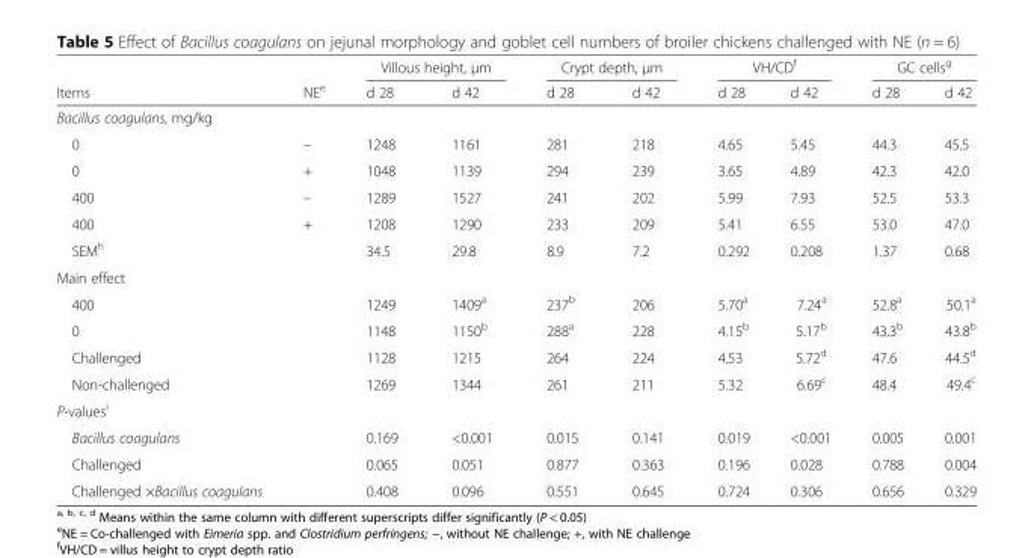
<table><thead><tr><td rowspan="2">Items</td><td rowspan="2">NE<sup>e</sup></td><td colspan="2">Villous height, μm</td><td colspan="2">Crypt depth, μm</td><td colspan="2">VH/CD<sup>f</sup></td><td colspan="2">GC cells<sup>g</sup></td></tr><tr><td>d 28</td><td>d 42</td><td>d 28</td><td>d 42</td><td>d 28</td><td>d 42</td><td>d 28</td><td>d 42</td></tr></thead><tbody><tr><td colspan="10">Bacillus coagulans, mg/kg</td></tr><tr><td>0</td><td>–</td><td>1248</td><td>1161</td><td>281</td><td>218</td><td>4.65</td><td>5.45</td><td>44.3</td><td>45.5</td></tr><tr><td>0</td><td>+</td><td>1048</td><td>1139</td><td>294</td><td>239</td><td>3.65</td><td>4.89</td><td>42.3</td><td>42.0</td></tr><tr><td>400</td><td>–</td><td>1289</td><td>1527</td><td>241</td><td>202</td><td>5.99</td><td>7.93</td><td>52.5</td><td>53.3</td></tr><tr><td>400</td><td>+</td><td>1208</td><td>1290</td><td>233</td><td>209</td><td>5.41</td><td>6.55</td><td>53.0</td><td>47.0</td></tr><tr><td>SEM<sup>h</sup></td><td></td><td>34.5</td><td>29.8</td><td>8.9</td><td>7.2</td><td>0.292</td><td>0.208</td><td>1.37</td><td>0.68</td></tr><tr><td colspan="10">Main effect</td></tr><tr><td>400</td><td></td><td>1249</td><td>1409<sup>a</sup></td><td>237<sup>b</sup></td><td>206</td><td>5.70<sup>a</sup></td><td>7.24<sup>a</sup></td><td>52.8<sup>a</sup></td><td>50.1<sup>a</sup></td></tr><tr><td>0</td><td></td><td>1148</td><td>1150<sup>b</sup></td><td>288<sup>a</sup></td><td>228</td><td>4.15<sup>b</sup></td><td>5.17<sup>b</sup></td><td>43.3<sup>b</sup></td><td>43.8<sup>b</sup></td></tr><tr><td>Challenged</td><td></td><td>1128</td><td>1215</td><td>264</td><td>224</td><td>4.53</td><td>5.72<sup>d</sup></td><td>47.6</td><td>44.5<sup>d</sup></td></tr><tr><td>Non-challenged</td><td></td><td>1269</td><td>1344</td><td>261</td><td>211</td><td>5.32</td><td>6.69<sup>c</sup></td><td>48.4</td><td>49.4<sup>c</sup></td></tr><tr><td colspan="10">P-values<sup>i</sup></td></tr><tr><td>Bacillus coagulans</td><td></td><td>0.169</td><td>&lt;0.001</td><td>0.015</td><td>0.141</td><td>0.019</td><td>&lt;0.001</td><td>0.005</td><td>0.001</td></tr><tr><td>Challenged</td><td></td><td>0.065</td><td>0.051</td><td>0.877</td><td>0.363</td><td>0.196</td><td>0.028</td><td>0.788</td><td>0.004</td></tr><tr><td>Challenged ×Bacillus coagulans</td><td></td><td>0.408</td><td>0.096</td><td>0.551</td><td>0.645</td><td>0.724</td><td>0.306</td><td>0.656</td><td>0.329</td></tr></tbody></table>